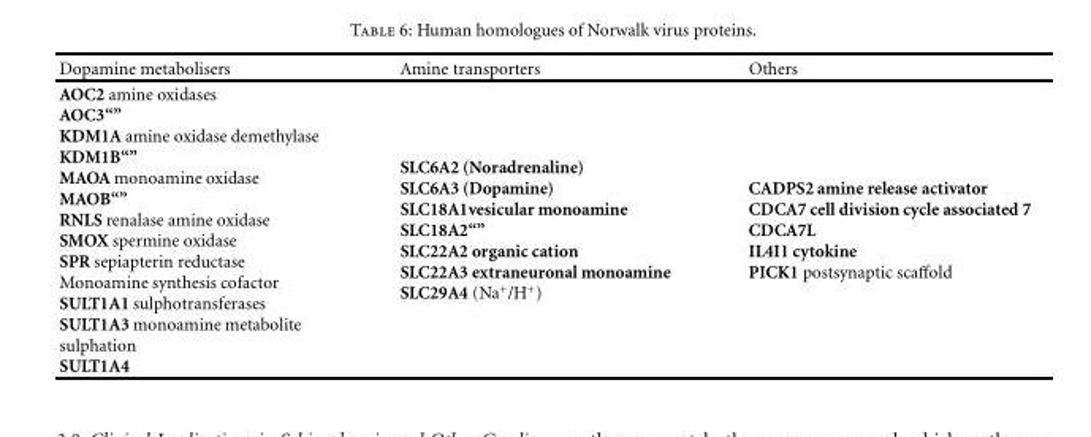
<table><thead><tr><td>Dopamine metabolisers</td><td>Amine transporters</td><td>Others</td></tr></thead><tbody><tr><td>AOC2 amine oxidases AOC3“” KDM1A amine oxidase demethylase KDM1B“” MAOA monoamine oxidase MAOB“” RNLS renalase amine oxidase SMOX spermine oxidase SPR sepiapterin reductase Monoamine synthesis cofactor SULT1A1 sulphotransferases SULT1A3 monoamine metabolite sulphation SULT1A4</td><td>SLC6A2 (Noradrenaline) SLC6A3 (Dopamine) SLC18A1vesicular monoamine SLC18A2“” SLC22A2 organic cation SLC22A3 extraneuronal monoamine SLC29A4 (Na<sup>+</sup>/H<sup>+</sup>)</td><td>CADPS2 amine release activator CDCA7 cell division cycle associated 7 CDCA7L IL4I1 cytokine PICK1 postsynaptic scaffold</td></tr></tbody></table>